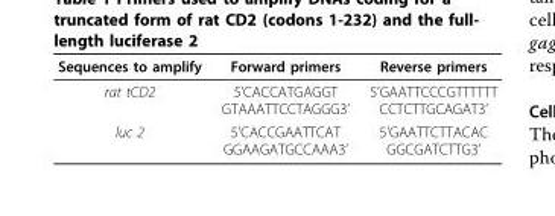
<table><thead><tr><td>Sequences to amplify</td><td>Forward primers</td><td>Reverse primers</td></tr></thead><tbody><tr><td>rat tCD2</td><td>5’CACCATGAGGT GTAAATTCCTAGGG3’</td><td>5’GAATTCCCGTTTTTT CCTCTTGCAGAT3’</td></tr><tr><td>luc 2</td><td>5’CACCGAATTCAT GGAAGATGCCAAA3’</td><td>5’GAATTCTTACAC GGCGATCTTG3’</td></tr></tbody></table>